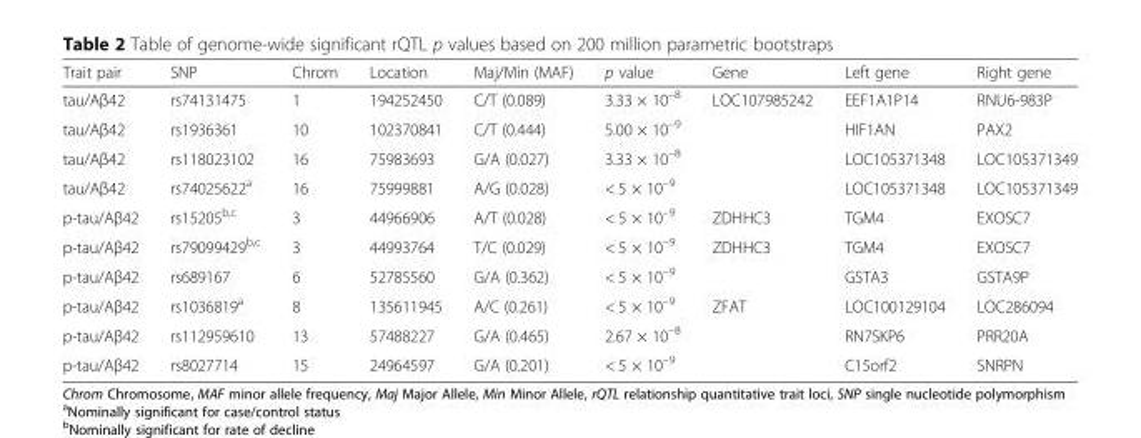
<table><thead><tr><td>Trait pair</td><td>SNP</td><td>Chrom</td><td>Location</td><td>Maj/Min (MAF)</td><td>p value</td><td>Gene</td><td>Left gene</td><td>Right gene</td></tr></thead><tbody><tr><td>tau/Aβ42</td><td>rs74131475</td><td>1</td><td>194252450</td><td>C/T (0.089)</td><td>3.33 × 10<sup>–8</sup></td><td>LOC107985242</td><td>EEF1A1P14</td><td>RNU6-983P</td></tr><tr><td>tau/Aβ42</td><td>rs1936361</td><td>10</td><td>102370841</td><td>C/T (0.444)</td><td>5.00 × 10<sup>–9</sup></td><td></td><td>HIF1AN</td><td>PAX2</td></tr><tr><td>tau/Aβ42</td><td>rs118023102</td><td>16</td><td>75983693</td><td>G/A (0.027)</td><td>3.33 × 10<sup>–8</sup></td><td></td><td>LOC105371348</td><td>LOC105371349</td></tr><tr><td>tau/Aβ42</td><td>rs74025622<sup>a</sup></td><td>16</td><td>75999881</td><td>A/G (0.028)</td><td>&lt; 5 × 10<sup>–9</sup></td><td></td><td>LOC105371348</td><td>LOC105371349</td></tr><tr><td>p-tau/Aβ42</td><td>rs15205<sup>b,c</sup></td><td>3</td><td>44966906</td><td>A/T (0.028)</td><td>&lt; 5 × 10<sup>–9</sup></td><td>ZDHHC3</td><td>TGM4</td><td>EXOSC7</td></tr><tr><td>p-tau/Aβ42</td><td>rs79099429<sup>b,c</sup></td><td>3</td><td>44993764</td><td>T/C (0.029)</td><td>&lt; 5 × 10<sup>–9</sup></td><td>ZDHHC3</td><td>TGM4</td><td>EXOSC7</td></tr><tr><td>p-tau/Aβ42</td><td>rs689167</td><td>6</td><td>52785560</td><td>G/A (0.362)</td><td>&lt; 5 × 10<sup>–9</sup></td><td></td><td>GSTA3</td><td>GSTA9P</td></tr><tr><td>p-tau/Aβ42</td><td>rs1036819<sup>a</sup></td><td>8</td><td>135611945</td><td>A/C (0.261)</td><td>&lt; 5 × 10<sup>–9</sup></td><td>ZFAT</td><td>LOC100129104</td><td>LOC286094</td></tr><tr><td>p-tau/Aβ42</td><td>rs112959610</td><td>13</td><td>57488227</td><td>G/A (0.465)</td><td>2.67 × 10<sup>–8</sup></td><td></td><td>RN7SKP6</td><td>PRR20A</td></tr><tr><td>p-tau/Aβ42</td><td>rs8027714</td><td>15</td><td>24964597</td><td>G/A (0.201)</td><td>&lt; 5 × 10<sup>–9</sup></td><td></td><td>C15orf2</td><td>SNRPN</td></tr></tbody></table>